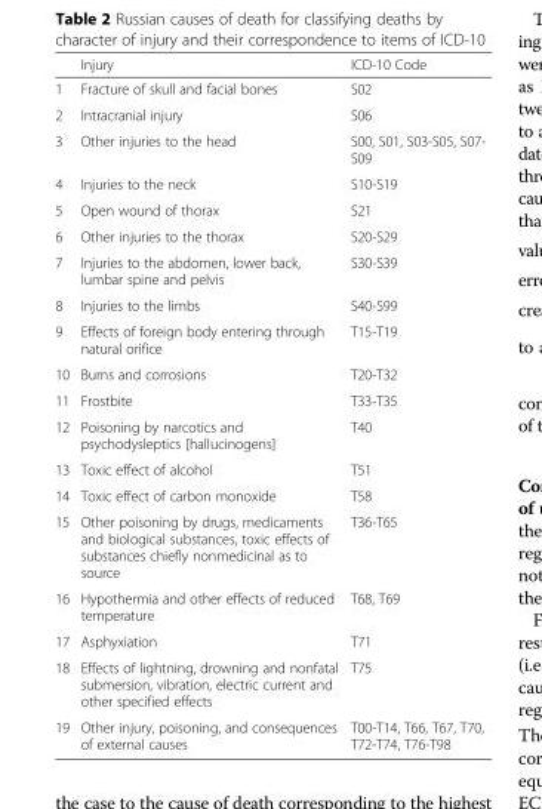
<table><thead><tr><td></td><td>Injury</td><td>ICD-10 Code</td></tr></thead><tbody><tr><td>1</td><td>Fracture of skull and facial bones</td><td>S02</td></tr><tr><td>2</td><td>Intracranial injury</td><td>S06</td></tr><tr><td>3</td><td>Other injuries to the head</td><td>S00, S01, S03-S05, S07- S09</td></tr><tr><td>4</td><td>Injuries to the neck</td><td>S10-S19</td></tr><tr><td>5</td><td>Open wound of thorax</td><td>S21</td></tr><tr><td>6</td><td>Other injuries to the thorax</td><td>S20-S29</td></tr><tr><td>7</td><td>Injuries to the abdomen, lower back, lumbar spine and pelvis</td><td>S30-S39</td></tr><tr><td>8</td><td>Injuries to the limbs</td><td>S40-S99</td></tr><tr><td>9</td><td>Effects of foreign body entering through natural orifice</td><td>T15-T19</td></tr><tr><td>10</td><td>Burns and corrosions</td><td>T20-T32</td></tr><tr><td>11</td><td>Frostbite</td><td>T33-T35</td></tr><tr><td>12</td><td>Poisoning by narcotics and psychodysleptics [hallucinogens]</td><td>T40</td></tr><tr><td>13</td><td>Toxic effect of alcohol</td><td>T51</td></tr><tr><td>14</td><td>Toxic effect of carbon monoxide</td><td>T58</td></tr><tr><td>15</td><td>Other poisoning by drugs, medicaments and biological substances, toxic effects of substances chiefly nonmedicinal as to source</td><td>T36-T65</td></tr><tr><td>16</td><td>Hypothermia and other effects of reduced temperature</td><td>T68, T69</td></tr><tr><td>17</td><td>Asphyxiation</td><td>T71</td></tr><tr><td>18</td><td>Effects of lightning, drowning and nonfatal submersion, vibration, electric current and other specified effects</td><td>T75</td></tr><tr><td>19</td><td>Other injury, poisoning, and consequences of external causes</td><td>T00-T14, T66, T67, T70, T72-T74, T76-T98</td></tr></tbody></table>